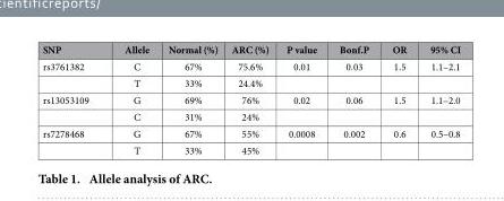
<table><thead><tr><td>SNP</td><td>Allele</td><td>Normal (%)</td><td>ARC (%)</td><td>P value</td><td>Bonf.P</td><td>OR</td><td>95% CI</td></tr></thead><tbody><tr><td rowspan="2">rs3761382</td><td>C</td><td>67%</td><td>75.6%</td><td>0.01</td><td>0.03</td><td>1.5</td><td>1.1–2.1</td></tr><tr><td>T</td><td>33%</td><td>24.4%</td><td></td><td></td><td></td><td></td></tr><tr><td rowspan="2">rs13053109</td><td>G</td><td>69%</td><td>76%</td><td>0.02</td><td>0.06</td><td>1.5</td><td>1.1–2.0</td></tr><tr><td>C</td><td>31%</td><td>24%</td><td></td><td></td><td></td><td></td></tr><tr><td rowspan="2">rs7278468</td><td>G</td><td>67%</td><td>55%</td><td>0.0008</td><td>0.002</td><td>0.6</td><td>0.5–0.8</td></tr><tr><td>T</td><td>33%</td><td>45%</td><td></td><td></td><td></td><td></td></tr></tbody></table>